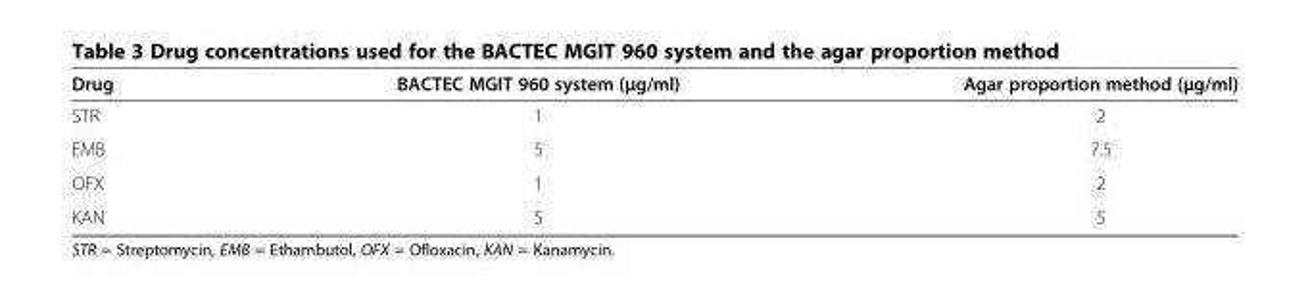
<table><thead><tr><td>Drug</td><td>BACTEC MGIT 960 system (μg/ml)</td><td>Agar proportion method (μg/ml)</td></tr></thead><tbody><tr><td>STR</td><td>1</td><td>2</td></tr><tr><td>EMB</td><td>5</td><td>7.5</td></tr><tr><td>OFX</td><td>1</td><td>2</td></tr><tr><td>KAN</td><td>5</td><td>5</td></tr></tbody></table>